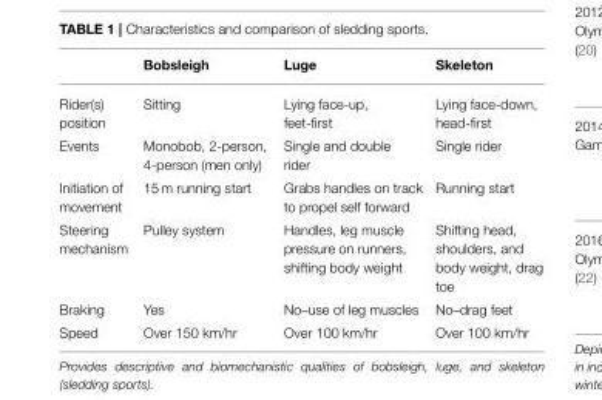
<table><thead><tr><td></td><td>Bobsleigh</td><td>Luge</td><td>Skeleton</td></tr></thead><tbody><tr><td>Rider(s) position</td><td>Sitting</td><td>Lying face-up, feet-first</td><td>Lying face-down, head-first</td></tr><tr><td>Events</td><td>Monobob, 2-person, 4-person (men only)</td><td>Single and double rider</td><td>Single rider</td></tr><tr><td>Initiation of movement</td><td>15 m running start</td><td>Grabs handles on track to propel self forward</td><td>Running start</td></tr><tr><td>Steering mechanism</td><td>Pulley system</td><td>Handles, leg muscle pressure on runners, shifting body weight</td><td>Shifting head, shoulders, and body weight, drag toe</td></tr><tr><td>Braking</td><td>Yes</td><td>No–use of leg muscles</td><td>No–drag feet</td></tr><tr><td>Speed</td><td>Over 150 km/hr</td><td>Over 100 km/hr</td><td>Over 100 km/hr</td></tr></tbody></table>